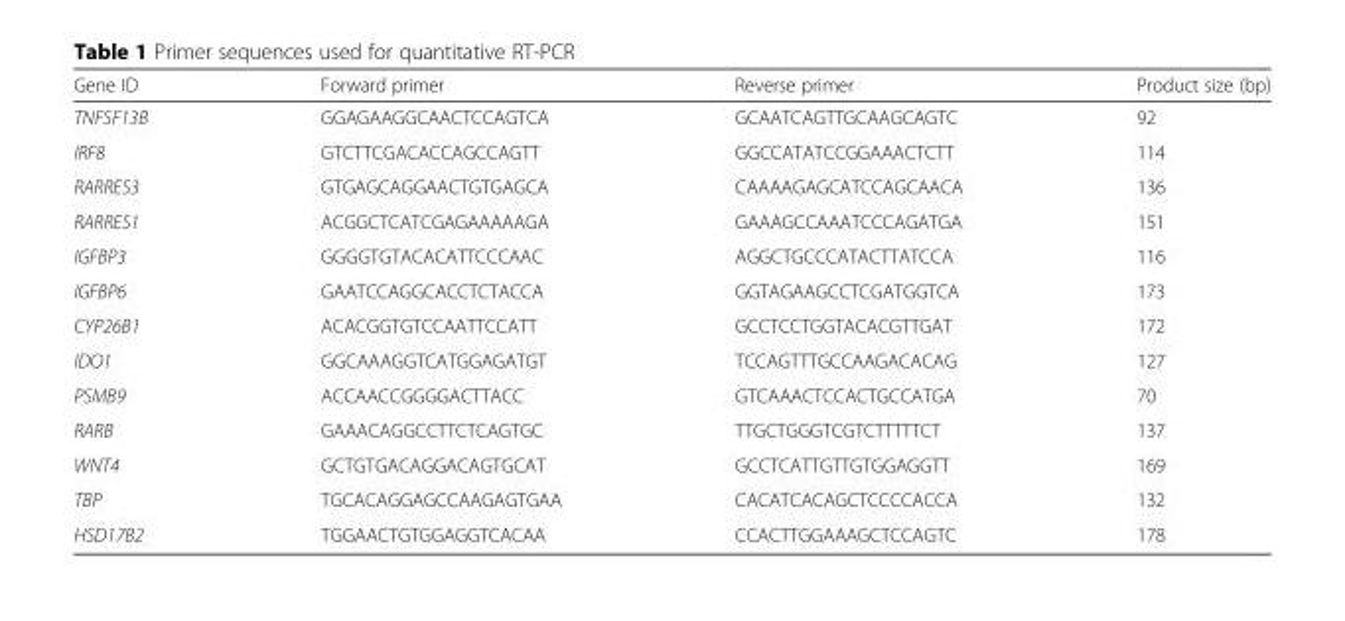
<table><thead><tr><td>Gene ID</td><td>Forward primer</td><td>Reverse primer</td><td>Product size (bp)</td></tr></thead><tbody><tr><td>TNFSF13B</td><td>GGAGAAGGCAACTCCAGTCA</td><td>GCAATCAGTTGCAAGCAGTC</td><td>92</td></tr><tr><td>IRF8</td><td>GTCTTCGACACCAGCCAGTT</td><td>GGCCATATCCGGAAACTCTT</td><td>114</td></tr><tr><td>RARRES3</td><td>GTGAGCAGGAACTGTGAGCA</td><td>CAAAAGAGCATCCAGCAACA</td><td>136</td></tr><tr><td>RARRES1</td><td>ACGGCTCATCGAGAAAAAGA</td><td>GAAAGCCAAATCCCAGATGA</td><td>151</td></tr><tr><td>IGFBP3</td><td>GGGGTGTACACATTCCCAAC</td><td>AGGCTGCCCATACTTATCCA</td><td>116</td></tr><tr><td>IGFBP6</td><td>GAATCCAGGCACCTCTACCA</td><td>GGTAGAAGCCTCGATGGTCA</td><td>173</td></tr><tr><td>CYP26B1</td><td>ACACGGTGTCCAATTCCATT</td><td>GCCTCCTGGTACACGTTGAT</td><td>172</td></tr><tr><td>IDO1</td><td>GGCAAAGGTCATGGAGATGT</td><td>TCCAGTTTGCCAAGACACAG</td><td>127</td></tr><tr><td>PSMB9</td><td>ACCAACCGGGGACTTACC</td><td>GTCAAACTCCACTGCCATGA</td><td>70</td></tr><tr><td>RARB</td><td>GAAACAGGCCTTCTCAGTGC</td><td>TTGCTGGGTCGTCTTTTTCT</td><td>137</td></tr><tr><td>WNT4</td><td>GCTGTGACAGGACAGTGCAT</td><td>GCCTCATTGTTGTGGAGGTT</td><td>169</td></tr><tr><td>TBP</td><td>TGCACAGGAGCCAAGAGTGAA</td><td>CACATCACAGCTCCCCACCA</td><td>132</td></tr><tr><td>HSD17B2</td><td>TGGAACTGTGGAGGTCACAA</td><td>CCACTTGGAAAGCTCCAGTC</td><td>178</td></tr></tbody></table>